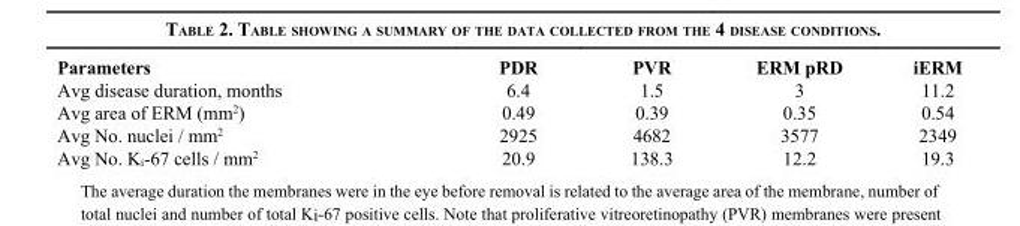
<table><thead><tr><td>Parameters</td><td>PDR</td><td>PVR</td><td>ERM pRD</td><td>iERM</td></tr></thead><tbody><tr><td>Avg disease duration, months</td><td>6.4</td><td>1.5</td><td>3</td><td>11.2</td></tr><tr><td>Avg area of ERM (mm<sup>2</sup>)</td><td>0.49</td><td>0.39</td><td>0.35</td><td>0.54</td></tr><tr><td>Avg No. nuclei / mm<sup>2</sup></td><td>2925</td><td>4682</td><td>3577</td><td>2349</td></tr><tr><td>Avg No. K<sub>i</sub>-67 cells / mm<sup>2</sup></td><td>20.9</td><td>138.3</td><td>12.2</td><td>19.3</td></tr></tbody></table>